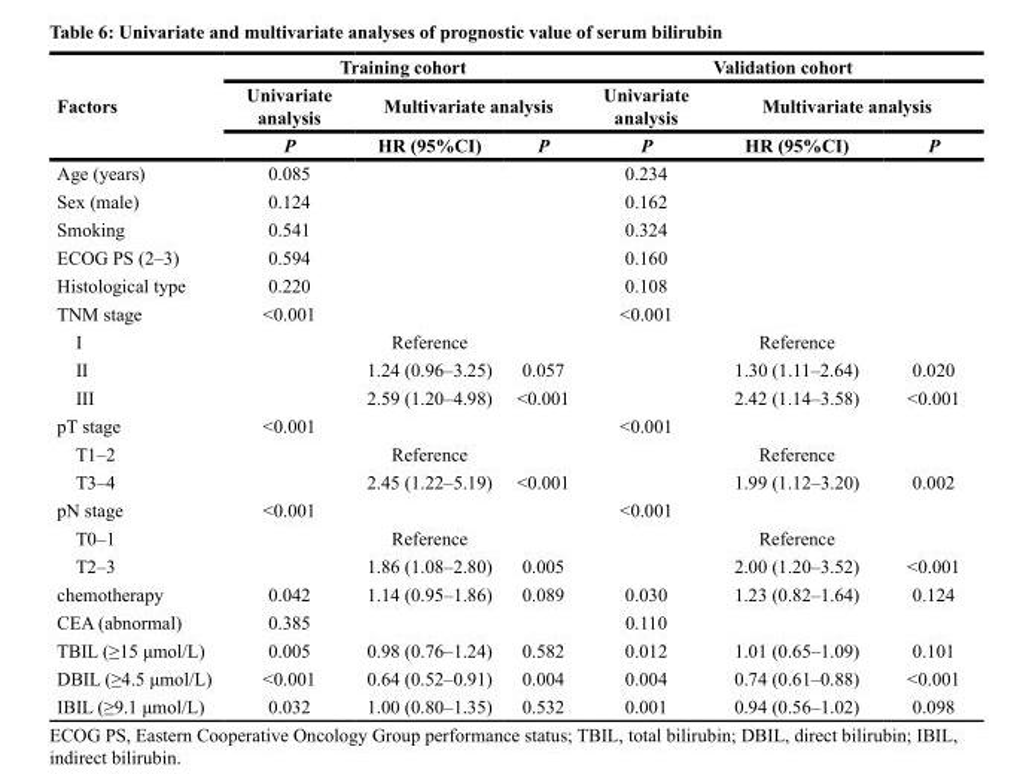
<table><thead><tr><td rowspan="3">Factors</td><td colspan="3">Training cohort</td><td colspan="3">Validation cohort</td></tr><tr><td rowspan="2">Univariate analysis P</td><td colspan="2">Multivariate analysis</td><td rowspan="2">Univariate analysis P</td><td colspan="2">Multivariate analysis</td></tr><tr><td>HR (95%CI)</td><td>P</td><td>HR (95%CI)</td><td>P</td></tr></thead><tbody><tr><td>Age (years)</td><td>0.085</td><td></td><td></td><td>0.234</td><td></td><td></td></tr><tr><td>Sex (male)</td><td>0.124</td><td></td><td></td><td>0.162</td><td></td><td></td></tr><tr><td>Smoking</td><td>0.541</td><td></td><td></td><td>0.324</td><td></td><td></td></tr><tr><td>ECOG PS (2–3)</td><td>0.594</td><td></td><td></td><td>0.160</td><td></td><td></td></tr><tr><td>Histological type</td><td>0.220</td><td></td><td></td><td>0.108</td><td></td><td></td></tr><tr><td>TNM stage</td><td>&lt;0.001</td><td></td><td></td><td>&lt;0.001</td><td></td><td></td></tr><tr><td>I</td><td></td><td>Reference</td><td></td><td></td><td>Reference</td><td></td></tr><tr><td>II</td><td></td><td>1.24 (0.96–3.25)</td><td>0.057</td><td></td><td>1.30 (1.11–2.64)</td><td>0.020</td></tr><tr><td>III</td><td></td><td>2.59 (1.20–4.98)</td><td>&lt;0.001</td><td></td><td>2.42 (1.14–3.58)</td><td>&lt;0.001</td></tr><tr><td>pT stage</td><td>&lt;0.001</td><td></td><td></td><td>&lt;0.001</td><td></td><td></td></tr><tr><td>T1–2</td><td></td><td>Reference</td><td></td><td></td><td>Reference</td><td></td></tr><tr><td>T3–4</td><td></td><td>2.45 (1.22–5.19)</td><td>&lt;0.001</td><td></td><td>1.99 (1.12–3.20)</td><td>0.002</td></tr><tr><td>pN stage</td><td>&lt;0.001</td><td></td><td></td><td>&lt;0.001</td><td></td><td></td></tr><tr><td>T0–1</td><td></td><td>Reference</td><td></td><td></td><td>Reference</td><td></td></tr><tr><td>T2–3</td><td></td><td>1.86 (1.08–2.80)</td><td>0.005</td><td></td><td>2.00 (1.20–3.52)</td><td>&lt;0.001</td></tr><tr><td>chemotherapy</td><td>0.042</td><td>1.14 (0.95–1.86)</td><td>0.089</td><td>0.030</td><td>1.23 (0.82–1.64)</td><td>0.124</td></tr><tr><td>CEA (abnormal)</td><td>0.385</td><td></td><td></td><td>0.110</td><td></td><td></td></tr><tr><td>TBIL (≥15 μmol/L)</td><td>0.005</td><td>0.98 (0.76–1.24)</td><td>0.582</td><td>0.012</td><td>1.01 (0.65–1.09)</td><td>0.101</td></tr><tr><td>DBIL (≥4.5 μmol/L)</td><td>&lt;0.001</td><td>0.64 (0.52–0.91)</td><td>0.004</td><td>0.004</td><td>0.74 (0.61–0.88)</td><td>&lt;0.001</td></tr><tr><td>IBIL (≥9.1 μmol/L)</td><td>0.032</td><td>1.00 (0.80–1.35)</td><td>0.532</td><td>0.001</td><td>0.94 (0.56–1.02)</td><td>0.098</td></tr></tbody></table>